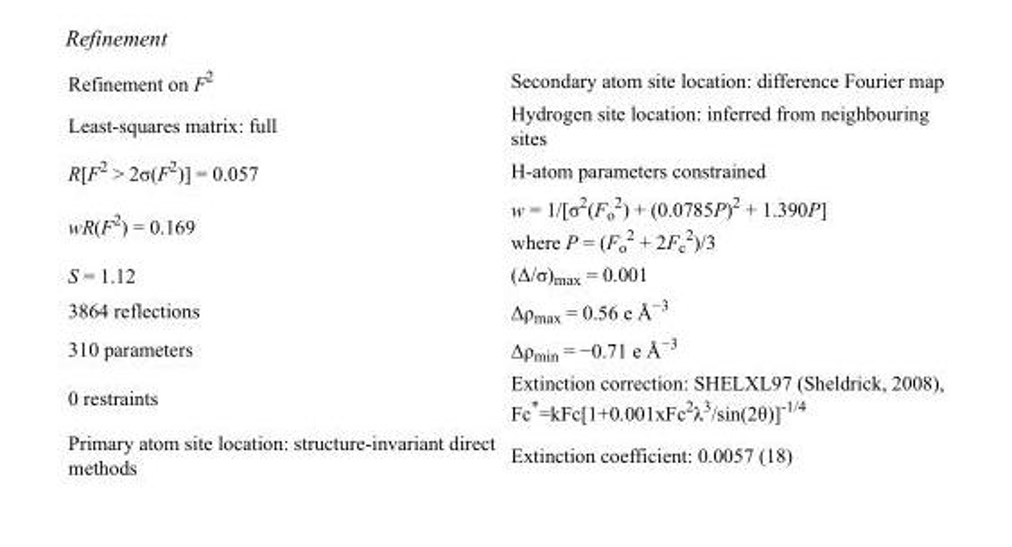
<table><tbody><tr><td>Refinement on F<sup>2</sup></td><td>Secondary atom site location: difference Fourier map</td></tr><tr><td>Least-squares matrix: full</td><td>Hydrogen site location: inferred from neighbouring sites</td></tr><tr><td>R[F<sup>2</sup> &gt; 2σ(F<sup>2</sup>)] = 0.057</td><td>H-atom parameters constrained</td></tr><tr><td>wR(F<sup>2</sup>) = 0.169</td><td>w = 1/[σ<sup>2</sup>(F<sub>o</sub> <sup>2</sup>) + (0.0785P)<sup>2</sup> + 1.390P] where P = (F<sub>o</sub> <sup>2</sup> + 2F<sub>c</sub> <sup>2</sup>)/3</td></tr><tr><td>S = 1.12</td><td>(Δ/σ)<sub>max</sub> = 0.001</td></tr><tr><td>3864 reflections</td><td>Δρ<sub>max</sub> = 0.56 e Å<sup>−3</sup></td></tr><tr><td>310 parameters</td><td>Δρ<sub>min</sub> = −0.71 e Å<sup>−3</sup></td></tr><tr><td>0 restraints</td><td>Extinction correction: SHELXL97 (Sheldrick, 2008), Fc*=kFc[1+0.001xFc<sup>2</sup>λ<sup>3</sup>/sin(2θ)]<sup>-1/4</sup></td></tr><tr><td>Primary atom site location: structure-invariant direct methods</td><td>Extinction coefficient: 0.0057 (18)</td></tr></tbody></table>